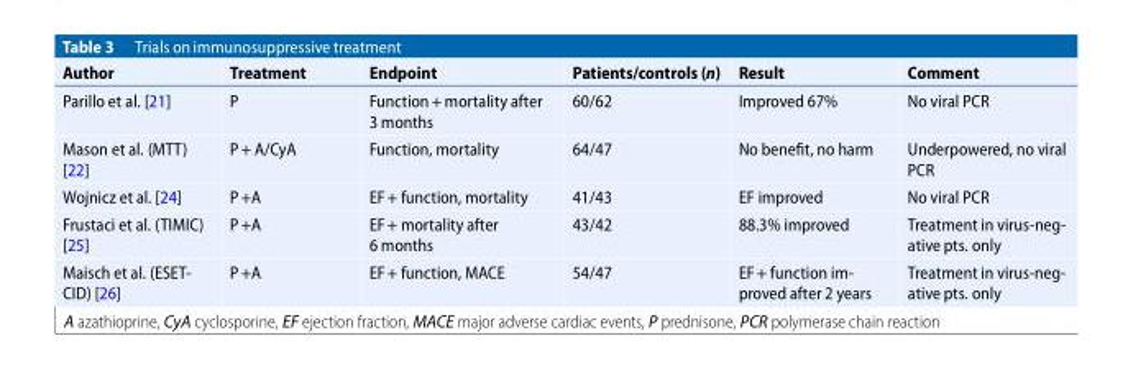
<table><thead><tr><td>Author</td><td>Treatment</td><td>Endpoint</td><td>Patients/controls (n)</td><td>Result</td><td>Comment</td></tr></thead><tbody><tr><td>Parillo et al. [21]</td><td>P</td><td>Function+ mortality after 3 months</td><td>60/62</td><td>Improved 67%</td><td>No viral PCR</td></tr><tr><td>Mason et al. (MTT) [22]</td><td>P+ A/CyA</td><td>Function, mortality</td><td>64/47</td><td>No benefit, no harm</td><td>Underpowered, no viral PCR</td></tr><tr><td>Wojnicz et al. [24]</td><td>P+A</td><td>EF+ function, mortality</td><td>41/43</td><td>EF improved</td><td>No viral PCR</td></tr><tr><td>Frustaci et al. (TIMIC) [25]</td><td>P+A</td><td>EF+ mortality after 6 months</td><td>43/42</td><td>88.3% improved</td><td>Treatment in virus-neg- ative pts. only</td></tr><tr><td>Maisch et al. (ESET- CID) [26]</td><td>P+A</td><td>EF+ function, MACE</td><td>54/47</td><td>EF+ function im- proved after 2 years</td><td>Treatment in virus-neg- ative pts. only</td></tr></tbody></table>